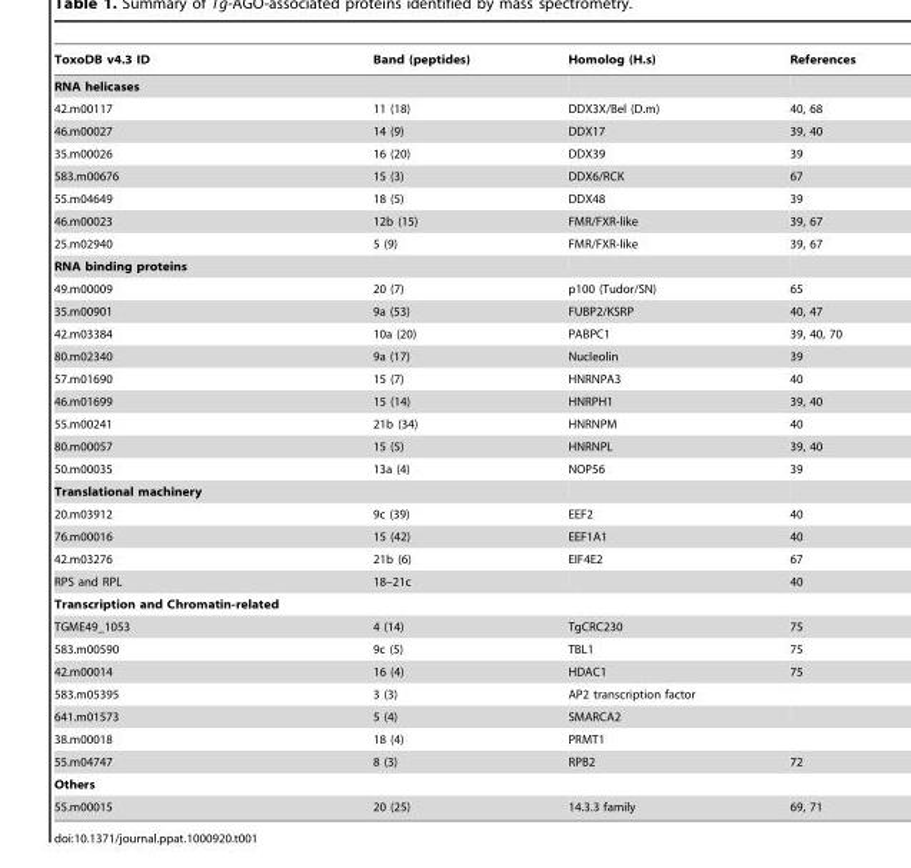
<table><thead><tr><td>ToxoDB v4.3 ID</td><td>Band (peptides)</td><td>Homolog (H.s)</td><td>References</td></tr></thead><tbody><tr><td colspan="4">RNA helicases</td></tr><tr><td>42.m00117</td><td>11 (18)</td><td>DDX3X/Bel (D.m)</td><td>40, 68</td></tr><tr><td>46.m00027</td><td>14 (9)</td><td>DDX17</td><td>39, 40</td></tr><tr><td>35.m00026</td><td>16 (20)</td><td>DDX39</td><td>39</td></tr><tr><td>583.m00676</td><td>15 (3)</td><td>DDX6/RCK</td><td>67</td></tr><tr><td>55.m04649</td><td>18 (5)</td><td>DDX48</td><td>39</td></tr><tr><td>46.m00023</td><td>12b (15)</td><td>FMR/FXR-like</td><td>39, 67</td></tr><tr><td>25.m02940</td><td>5 (9)</td><td>FMR/FXR-like</td><td>39, 67</td></tr><tr><td colspan="4">RNA binding proteins</td></tr><tr><td>49.m00009</td><td>20 (7)</td><td>p100 (Tudor/SN)</td><td>65</td></tr><tr><td>35.m00901</td><td>9a (53)</td><td>FUBP2/KSRP</td><td>40, 47</td></tr><tr><td>42.m03384</td><td>10a (20)</td><td>PABPC1</td><td>39, 40, 70</td></tr><tr><td>80.m02340</td><td>9a (17)</td><td>Nucleolin</td><td>39</td></tr><tr><td>57.m01690</td><td>15 (7)</td><td>HNRNPA3</td><td>40</td></tr><tr><td>46.m01699</td><td>15 (14)</td><td>HNRPH1</td><td>39, 40</td></tr><tr><td>55.m00241</td><td>21b (34)</td><td>HNRNPM</td><td>40</td></tr><tr><td>80.m00057</td><td>15 (5)</td><td>HNRNPL</td><td>39, 40</td></tr><tr><td>50.m00035</td><td>13a (4)</td><td>NOP56</td><td>39</td></tr><tr><td colspan="4">Translational machinery</td></tr><tr><td>20.m03912</td><td>9c (39)</td><td>EEF2</td><td>40</td></tr><tr><td>76.m00016</td><td>15 (42)</td><td>EEF1A1</td><td>40</td></tr><tr><td>42.m03276</td><td>21b (6)</td><td>EIF4E2</td><td>67</td></tr><tr><td>RPS and RPL</td><td>18–21c</td><td></td><td>40</td></tr><tr><td colspan="4">Transcription and Chromatin-related</td></tr><tr><td>TGME49_1053</td><td>4 (14)</td><td>TgCRC230</td><td>75</td></tr><tr><td>583.m00590</td><td>9c (5)</td><td>TBL1</td><td>75</td></tr><tr><td>42.m00014</td><td>16 (4)</td><td>HDAC1</td><td>75</td></tr><tr><td>583.m05395</td><td>3 (3)</td><td>AP2 transcription factor</td><td></td></tr><tr><td>641.m01573</td><td>5 (4)</td><td>SMARCA2</td><td></td></tr><tr><td>38.m00018</td><td>18 (4)</td><td>PRMT1</td><td></td></tr><tr><td>55.m04747</td><td>8 (3)</td><td>RPB2</td><td>72</td></tr><tr><td colspan="4">Others</td></tr><tr><td>55.m00015</td><td>20 (25)</td><td>14.3.3 family</td><td>69, 71</td></tr></tbody></table>